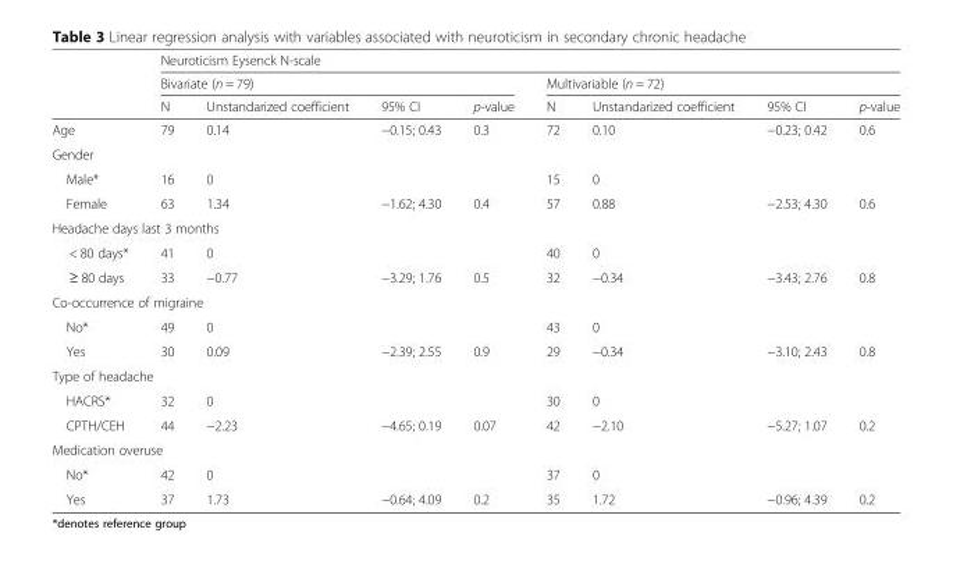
<table><thead><tr><td rowspan="3"></td><td colspan="8">Neuroticism Eysenck N-scale</td></tr><tr><td colspan="4">Bivariate (n = 79)</td><td colspan="4">Multivariable (n = 72)</td></tr><tr><td>N</td><td>Unstandarized coefficient</td><td>95% CI</td><td>p-value</td><td>N</td><td>Unstandarized coefficient</td><td>95% CI</td><td>p-value</td></tr></thead><tbody><tr><td>Age</td><td>79</td><td>0.14</td><td>−0.15; 0.43</td><td>0.3</td><td>72</td><td>0.10</td><td>−0.23; 0.42</td><td>0.6</td></tr><tr><td colspan="9">Gender</td></tr><tr><td>Male*</td><td>16</td><td>0</td><td></td><td></td><td>15</td><td>0</td><td></td><td></td></tr><tr><td>Female</td><td>63</td><td>1.34</td><td>−1.62; 4.30</td><td>0.4</td><td>57</td><td>0.88</td><td>−2.53; 4.30</td><td>0.6</td></tr><tr><td colspan="9">Headache days last 3 months</td></tr><tr><td>&lt; 80 days*</td><td>41</td><td>0</td><td></td><td></td><td>40</td><td>0</td><td></td><td></td></tr><tr><td>≥ 80 days</td><td>33</td><td>−0.77</td><td>−3.29; 1.76</td><td>0.5</td><td>32</td><td>−0.34</td><td>−3.43; 2.76</td><td>0.8</td></tr><tr><td colspan="9">Co-occurrence of migraine</td></tr><tr><td>No*</td><td>49</td><td>0</td><td></td><td></td><td>43</td><td>0</td><td></td><td></td></tr><tr><td>Yes</td><td>30</td><td>0.09</td><td>−2.39; 2.55</td><td>0.9</td><td>29</td><td>−0.34</td><td>−3.10; 2.43</td><td>0.8</td></tr><tr><td colspan="9">Type of headache</td></tr><tr><td>HACRS*</td><td>32</td><td>0</td><td></td><td></td><td>30</td><td>0</td><td></td><td></td></tr><tr><td>CPTH/CEH</td><td>44</td><td>−2.23</td><td>−4.65; 0.19</td><td>0.07</td><td>42</td><td>−2.10</td><td>−5.27; 1.07</td><td>0.2</td></tr><tr><td colspan="9">Medication overuse</td></tr><tr><td>No*</td><td>42</td><td>0</td><td></td><td></td><td>37</td><td>0</td><td></td><td></td></tr><tr><td>Yes</td><td>37</td><td>1.73</td><td>−0.64; 4.09</td><td>0.2</td><td>35</td><td>1.72</td><td>−0.96; 4.39</td><td>0.2</td></tr></tbody></table>